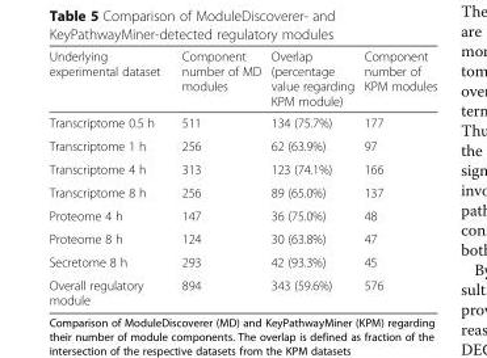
<table><thead><tr><td>Underlying experimental dataset</td><td>Component number of MD modules</td><td>Overlap (percentage value regarding KPM module)</td><td>Component number of KPM modules</td></tr></thead><tbody><tr><td>Transcriptome 0.5 h</td><td>511</td><td>134 (75.7%)</td><td>177</td></tr><tr><td>Transcriptome 1 h</td><td>256</td><td>62 (63.9%)</td><td>97</td></tr><tr><td>Transcriptome 4 h</td><td>313</td><td>123 (74.1%)</td><td>166</td></tr><tr><td>Transcriptome 8 h</td><td>256</td><td>89 (65.0%)</td><td>137</td></tr><tr><td>Proteome 4 h</td><td>147</td><td>36 (75.0%)</td><td>48</td></tr><tr><td>Proteome 8 h</td><td>124</td><td>30 (63.8%)</td><td>47</td></tr><tr><td>Secretome 8 h</td><td>293</td><td>42 (93.3%)</td><td>45</td></tr><tr><td>Overall regulatory module</td><td>894</td><td>343 (59.6%)</td><td>576</td></tr></tbody></table>